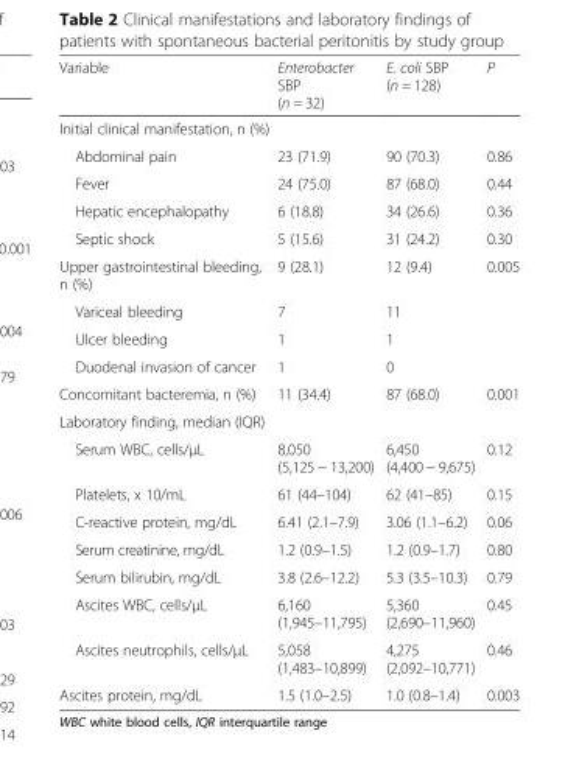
<table><thead><tr><td>Variable</td><td>Enterobacter SBP (n = 32)</td><td>E. coli SBP (n = 128)</td><td>P</td></tr></thead><tbody><tr><td colspan="4">Initial clinical manifestation, n (%)</td></tr><tr><td>Abdominal pain</td><td>23 (71.9)</td><td>90 (70.3)</td><td>0.86</td></tr><tr><td>Fever</td><td>24 (75.0)</td><td>87 (68.0)</td><td>0.44</td></tr><tr><td>Hepatic encephalopathy</td><td>6 (18.8)</td><td>34 (26.6)</td><td>0.36</td></tr><tr><td>Septic shock</td><td>5 (15.6)</td><td>31 (24.2)</td><td>0.30</td></tr><tr><td>Upper gastrointestinal bleeding, n (%)</td><td>9 (28.1)</td><td>12 (9.4)</td><td>0.005</td></tr><tr><td>Variceal bleeding</td><td>7</td><td>11</td><td></td></tr><tr><td>Ulcer bleeding</td><td>1</td><td>1</td><td></td></tr><tr><td>Duodenal invasion of cancer</td><td>1</td><td>0</td><td></td></tr><tr><td>Concomitant bacteremia, n (%)</td><td>11 (34.4)</td><td>87 (68.0)</td><td>0.001</td></tr><tr><td colspan="4">Laboratory finding, median (IQR)</td></tr><tr><td>Serum WBC, cells/μL</td><td>8,050 (5,125 − 13,200)</td><td>6,450 (4,400 − 9,675)</td><td>0.12</td></tr><tr><td>Platelets, x 10/mL</td><td>61 (44–104)</td><td>62 (41–85)</td><td>0.15</td></tr><tr><td>C-reactive protein, mg/dL</td><td>6.41 (2.1–7.9)</td><td>3.06 (1.1–6.2)</td><td>0.06</td></tr><tr><td>Serum creatinine, mg/dL</td><td>1.2 (0.9–1.5)</td><td>1.2 (0.9–1.7)</td><td>0.80</td></tr><tr><td>Serum bilirubin, mg/dL</td><td>3.8 (2.6–12.2)</td><td>5.3 (3.5–10.3)</td><td>0.79</td></tr><tr><td>Ascites WBC, cells/μL</td><td>6,160 (1,945–11,795)</td><td>5,360 (2,690–11,960)</td><td>0.45</td></tr><tr><td>Ascites neutrophils, cells/μL</td><td>5,058 (1,483–10,899)</td><td>4,275 (2,092–10,771)</td><td>0.46</td></tr><tr><td>Ascites protein, mg/dL</td><td>1.5 (1.0–2.5)</td><td>1.0 (0.8–1.4)</td><td>0.003</td></tr></tbody></table>